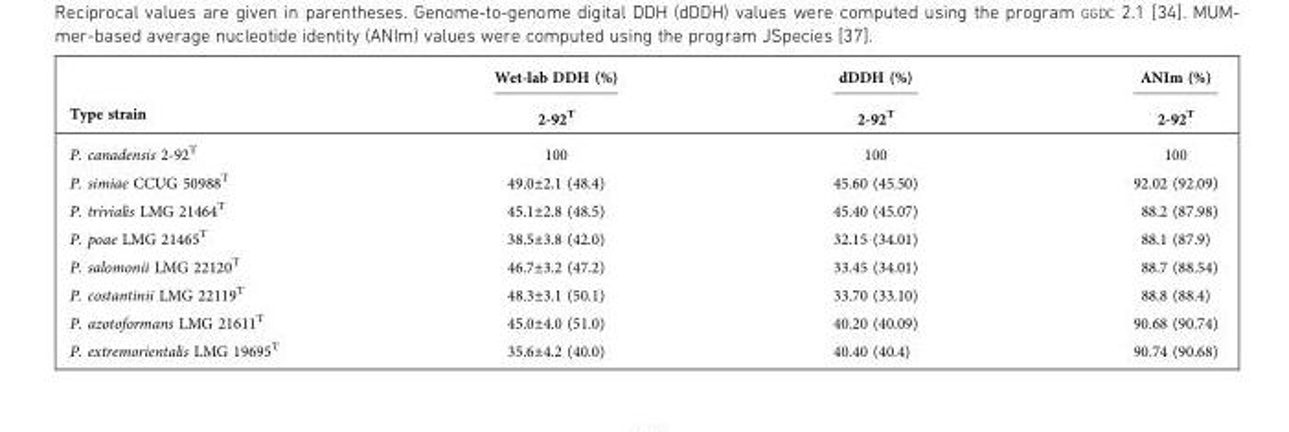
<table><thead><tr><td rowspan="2">Type strain</td><td rowspan="2">Wet-lab DDH (%) 2-92<sup>T</sup></td><td rowspan="2">dDDH (%) 2-92<sup>T</sup></td><td rowspan="2">ANIm (%) 2-92<sup>T</sup></td></tr><tr></tr></thead><tbody><tr><td>P. canadensis 2-92<sup>T</sup></td><td>100</td><td>100</td><td>100</td></tr><tr><td>P. simiae CCUG 50988<sup>T</sup></td><td>49.0±2.1 (48.4)</td><td>45.60 (45.50)</td><td>92.02 (92.09)</td></tr><tr><td>P. trivialis LMG 21464<sup>T</sup></td><td>45.1±2.8 (48.5)</td><td>45.40 (45.07)</td><td>88.2 (87.98)</td></tr><tr><td>P. poae LMG 21465<sup>T</sup></td><td>38.5±3.8 (42.0)</td><td>32.15 (34.01)</td><td>88.1 (87.9)</td></tr><tr><td>P. salomonii LMG 22120<sup>T</sup></td><td>46.7±3.2 (47.2)</td><td>33.45 (34.01)</td><td>88.7 (88.54)</td></tr><tr><td>P. costantinii LMG 22119<sup>T</sup></td><td>48.3±3.1 (50.1)</td><td>33.70 (33.10)</td><td>88.8 (88.4)</td></tr><tr><td>P. azotoformans LMG 21611<sup>T</sup></td><td>45.0±4.0 (51.0)</td><td>40.20 (40.09)</td><td>90.68 (90.74)</td></tr><tr><td>P. extremorientalis LMG 19695<sup>T</sup></td><td>35.6±4.2 (40.0)</td><td>40.40 (40.4)</td><td>90.74 (90.68)</td></tr></tbody></table>